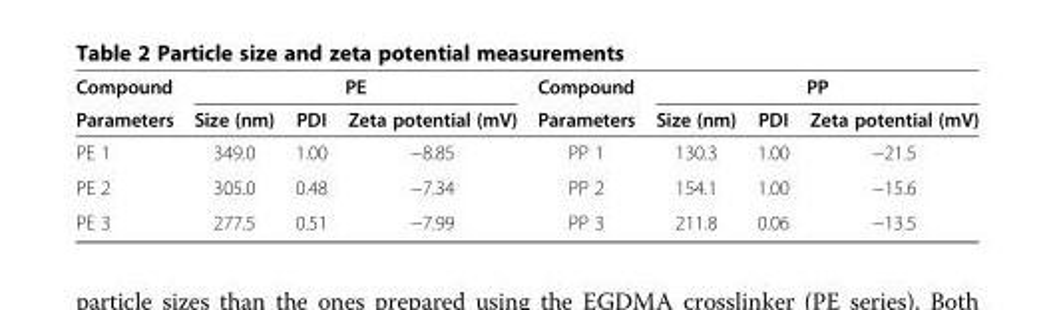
<table><thead><tr><td rowspan="2">Compound Parameters</td><td colspan="3">PE</td><td rowspan="2">Compound Parameters</td><td colspan="3">PP</td></tr><tr><td>Size (nm)</td><td>PDI</td><td>Zeta potential (mV)</td><td>Size (nm)</td><td>PDI</td><td>Zeta potential (mV)</td></tr></thead><tbody><tr><td>PE 1</td><td>349.0</td><td>1.00</td><td>−8.85</td><td>PP 1</td><td>130.3</td><td>1.00</td><td>−21.5</td></tr><tr><td>PE 2</td><td>305.0</td><td>0.48</td><td>−7.34</td><td>PP 2</td><td>154.1</td><td>1.00</td><td>−15.6</td></tr><tr><td>PE 3</td><td>277.5</td><td>0.51</td><td>−7.99</td><td>PP 3</td><td>211.8</td><td>0.06</td><td>−13.5</td></tr></tbody></table>